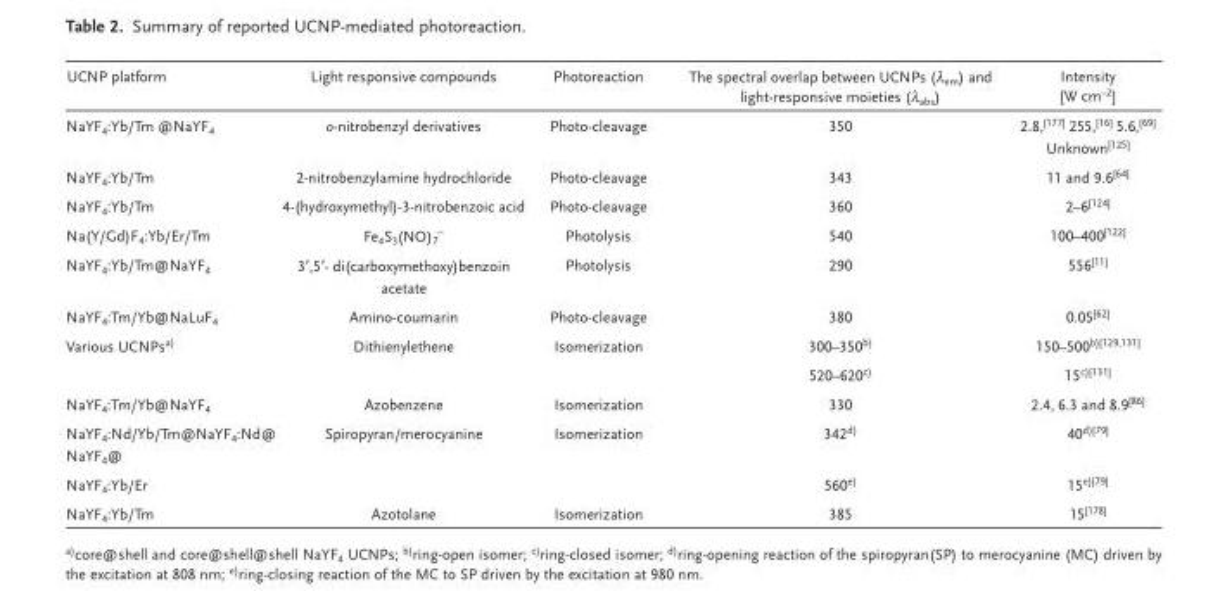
<table><thead><tr><td>UCNP platform</td><td>Light responsive compounds</td><td>Photoreaction</td><td>The spectral overlap between UCNPs ( λ <sub>em</sub> ) and light-responsive moieties ( λ <sub>abs</sub> )</td><td>Intensity [W cm <sup>–2</sup> ]</td></tr></thead><tbody><tr><td>NaYF <sub>4</sub> :Yb/Tm @NaYF <sub>4</sub></td><td>o -nitrobenzyl derivatives</td><td>Photo-cleavage</td><td>350</td><td>2.8, [ 177 ] 255, [ 16 ] 5.6, [ 69 Unknown [ 125 ]</td></tr><tr><td>NaYF <sub>4</sub> :Yb/Tm</td><td>2-nitrobenzylamine hydrochloride</td><td>Photo-cleavage</td><td>343</td><td>11 and 9.6 [ 64 ]</td></tr><tr><td>NaYF <sub>4</sub> :Yb/Tm</td><td>4-(hydroxymethyl)-3-nitrobenzoic acid</td><td>Photo-cleavage</td><td>360</td><td>2–6 [ 124 ]</td></tr><tr><td>Na(Y/Gd)F <sub>4</sub> :Yb/Er/Tm</td><td>Fe <sub>4</sub> S <sub>3</sub> (NO) <sub>7</sub> <sup>−</sup></td><td>Photolysis</td><td>540</td><td>100–400 [ 122 ]</td></tr><tr><td>NaYF <sub>4</sub> :Yb/Tm@NaYF <sub>4</sub></td><td>3′,5′- di(carboxymethoxy)benzoin acetate</td><td>Photolysis</td><td>290</td><td>556 [ 11 ]</td></tr><tr><td>NaYF <sub>4</sub> :Tm/Yb@NaLuF <sub>4</sub></td><td>Amino-coumarin</td><td>Photo-cleavage</td><td>380</td><td>0.05 [ 62 ]</td></tr><tr><td rowspan="2">Various UCNPs a)</td><td>Dithienylethene</td><td>Isomerization</td><td>300–350 b)</td><td>150–500 b) [ 129,131 ]</td></tr><tr><td></td><td></td><td>520–620 c)</td><td>15 c) [ 131 ]</td></tr><tr><td>NaYF <sub>4</sub> :Tm/Yb@NaYF <sub>4</sub></td><td>Azobenzene</td><td>Isomerization</td><td>330</td><td>2.4, 6.3 and 8.9 [ 86 ]</td></tr><tr><td>NaYF <sub>4</sub> :Nd/Yb/Tm@NaYF <sub>4</sub> :Nd@ NaYF <sub>4</sub> @</td><td>Spiropyran/merocyanine</td><td>Isomerization</td><td>342 d)</td><td>40 d) [ 79 ]</td></tr><tr><td>NaYF <sub>4</sub> :Yb/Er</td><td></td><td></td><td>560 e)</td><td>15 e) [ 79 ]</td></tr><tr><td>NaYF <sub>4</sub> :Yb/Tm</td><td>Azotolane</td><td>Isomerization</td><td>385</td><td>15 [ 178 ]</td></tr></tbody></table>